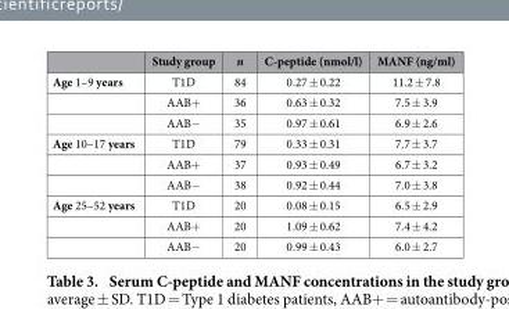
<table><thead><tr><td></td><td>Study group</td><td>n</td><td>C-peptide (nmol/l)</td><td>MANF (ng/ml)</td></tr></thead><tbody><tr><td rowspan="3">Age 1–9 years</td><td>T1D</td><td>84</td><td>0.27 ± 0.22</td><td>11.2 ± 7.8</td></tr><tr><td>AAB+</td><td>36</td><td>0.63 ± 0.32</td><td>7.5 ± 3.9</td></tr><tr><td>AAB−</td><td>35</td><td>0.97 ± 0.61</td><td>6.9 ± 2.6</td></tr><tr><td rowspan="3">Age 10–17 years</td><td>T1D</td><td>79</td><td>0.33 ± 0.31</td><td>7.7 ± 3.7</td></tr><tr><td>AAB+</td><td>37</td><td>0.93 ± 0.49</td><td>6.7 ± 3.2</td></tr><tr><td>AAB−</td><td>38</td><td>0.92 ± 0.44</td><td>7.0 ± 3.8</td></tr><tr><td rowspan="3">Age 25–52 years</td><td>T1D</td><td>20</td><td>0.08 ± 0.15</td><td>6.5 ± 2.9</td></tr><tr><td>AAB+</td><td>20</td><td>1.09 ± 0.62</td><td>7.4 ± 4.2</td></tr><tr><td>AAB−</td><td>20</td><td>0.99 ± 0.43</td><td>6.0 ± 2.7</td></tr></tbody></table>